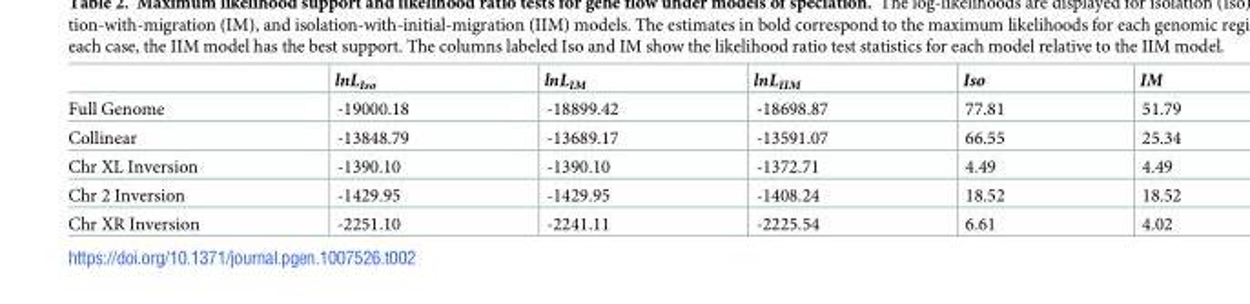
<table><thead><tr><td></td><td>lnL<sub>Iso</sub></td><td>lnL<sub>IM</sub></td><td>lnL<sub>IIM</sub></td><td>Iso</td><td>IM</td></tr></thead><tbody><tr><td>Full Genome</td><td>-19000.18</td><td>-18899.42</td><td>-18698.87</td><td>77.81</td><td>51.79</td></tr><tr><td>Collinear</td><td>-13848.79</td><td>-13689.17</td><td>-13591.07</td><td>66.55</td><td>25.34</td></tr><tr><td>Chr XL Inversion</td><td>-1390.10</td><td>-1390.10</td><td>-1372.71</td><td>4.49</td><td>4.49</td></tr><tr><td>Chr 2 Inversion</td><td>-1429.95</td><td>-1429.95</td><td>-1408.24</td><td>18.52</td><td>18.52</td></tr><tr><td>Chr XR Inversion</td><td>-2251.10</td><td>-2241.11</td><td>-2225.54</td><td>6.61</td><td>4.02</td></tr></tbody></table>